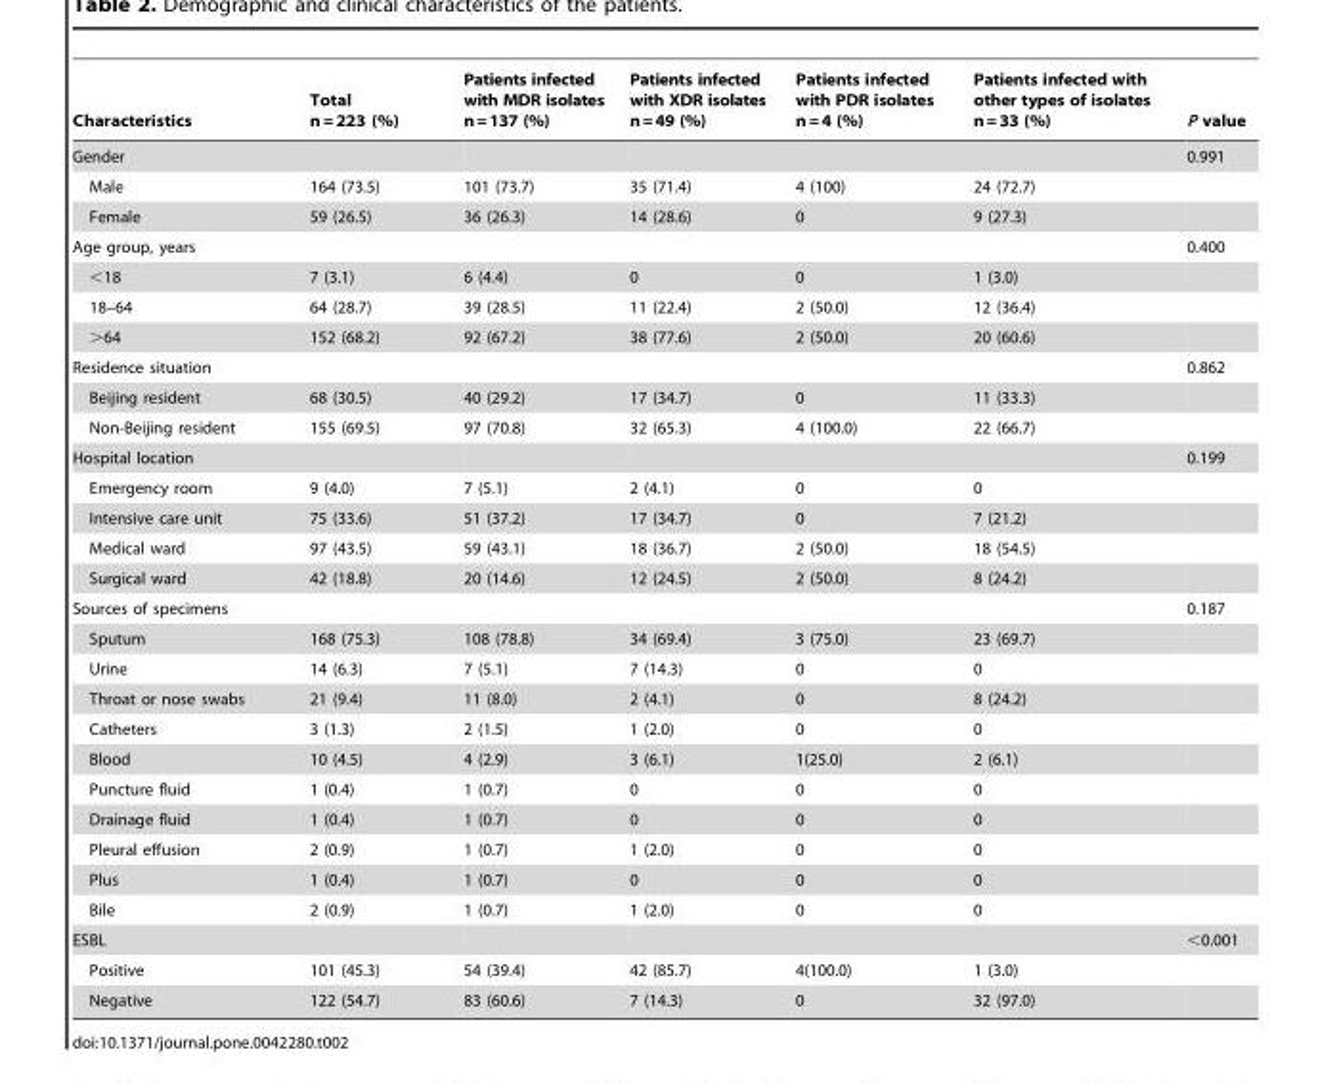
<table><thead><tr><td>Characteristics</td><td>Total n = 223 (%)</td><td>Patients infected with MDR isolates n=137 (%)</td><td>Patients infected with XDR isolates n=49 (%)</td><td>Patients infected with PDR isolates n= 4 (%)</td><td>Patients infected with other types of isolates n= 33 (%)</td><td>P value</td></tr></thead><tbody><tr><td>Gender</td><td></td><td></td><td></td><td></td><td></td><td>0.991</td></tr><tr><td>Male</td><td>164 (73.5)</td><td>101 (73.7)</td><td>35 (71.4)</td><td>4 (100)</td><td>24 (72.7)</td><td></td></tr><tr><td>Female</td><td>59 (26.5)</td><td>36 (26.3)</td><td>14 (28.6)</td><td>0</td><td>9 (27.3)</td><td></td></tr><tr><td>Age group, years</td><td></td><td></td><td></td><td></td><td></td><td>0.400</td></tr><tr><td>&lt;18</td><td>7 (3.1)</td><td>6 (4.4)</td><td>0</td><td>0</td><td>1 (3.0)</td><td></td></tr><tr><td>18–64</td><td>64 (28.7)</td><td>39 (28.5)</td><td>11 (22.4)</td><td>2 (50.0)</td><td>12 (36.4)</td><td></td></tr><tr><td>&gt;64</td><td>152 (68.2)</td><td>92 (67.2)</td><td>38 (77.6)</td><td>2 (50.0)</td><td>20 (60.6)</td><td></td></tr><tr><td>Residence situation</td><td></td><td></td><td></td><td></td><td></td><td>0.862</td></tr><tr><td>Beijing resident</td><td>68 (30.5)</td><td>40 (29.2)</td><td>17 (34.7)</td><td>0</td><td>11 (33.3)</td><td></td></tr><tr><td>Non-Beijing resident</td><td>155 (69.5)</td><td>97 (70.8)</td><td>32 (65.3)</td><td>4 (100.0)</td><td>22 (66.7)</td><td></td></tr><tr><td>Hospital location</td><td></td><td></td><td></td><td></td><td></td><td>0.199</td></tr><tr><td>Emergency room</td><td>9 (4.0)</td><td>7 (5.1)</td><td>2 (4.1)</td><td>0</td><td>0</td><td></td></tr><tr><td>Intensive care unit</td><td>75 (33.6)</td><td>51 (37.2)</td><td>17 (34.7)</td><td>0</td><td>7 (21.2)</td><td></td></tr><tr><td>Medical ward</td><td>97 (43.5)</td><td>59 (43.1)</td><td>18 (36.7)</td><td>2 (50.0)</td><td>18 (54.5)</td><td></td></tr><tr><td>Surgical ward</td><td>42 (18.8)</td><td>20 (14.6)</td><td>12 (24.5)</td><td>2 (50.0)</td><td>8 (24.2)</td><td></td></tr><tr><td>Sources of specimens</td><td></td><td></td><td></td><td></td><td></td><td>0.187</td></tr><tr><td>Sputum</td><td>168 (75.3)</td><td>108 (78.8)</td><td>34 (69.4)</td><td>3 (75.0)</td><td>23 (69.7)</td><td></td></tr><tr><td>Urine</td><td>14 (6.3)</td><td>7 (5.1)</td><td>7 (14.3)</td><td>0</td><td>0</td><td></td></tr><tr><td>Throat or nose swabs</td><td>21 (9.4)</td><td>11 (8.0)</td><td>2 (4.1)</td><td>0</td><td>8 (24.2)</td><td></td></tr><tr><td>Catheters</td><td>3 (1.3)</td><td>2 (1.5)</td><td>1 (2.0)</td><td>0</td><td>0</td><td></td></tr><tr><td>Blood</td><td>10 (4.5)</td><td>4 (2.9)</td><td>3 (6.1)</td><td>1(25.0)</td><td>2 (6.1)</td><td></td></tr><tr><td>Puncture fluid</td><td>1 (0.4)</td><td>1 (0.7)</td><td>0</td><td>0</td><td>0</td><td></td></tr><tr><td>Drainage fluid</td><td>1 (0.4)</td><td>1 (0.7)</td><td>0</td><td>0</td><td>0</td><td></td></tr><tr><td>Pleural effusion</td><td>2 (0.9)</td><td>1 (0.7)</td><td>1 (2.0)</td><td>0</td><td>0</td><td></td></tr><tr><td>Plus</td><td>1 (0.4)</td><td>1 (0.7)</td><td>0</td><td>0</td><td>0</td><td></td></tr><tr><td>Bile</td><td>2 (0.9)</td><td>1 (0.7)</td><td>1 (2.0)</td><td>0</td><td>0</td><td></td></tr><tr><td>ESBL</td><td></td><td></td><td></td><td></td><td></td><td>&lt;0.001</td></tr><tr><td>Positive</td><td>101 (45.3)</td><td>54 (39.4)</td><td>42 (85.7)</td><td>4(100.0)</td><td>1 (3.0)</td><td></td></tr><tr><td>Negative</td><td>122 (54.7)</td><td>83 (60.6)</td><td>7 (14.3)</td><td>0</td><td>32 (97.0)</td><td></td></tr></tbody></table>